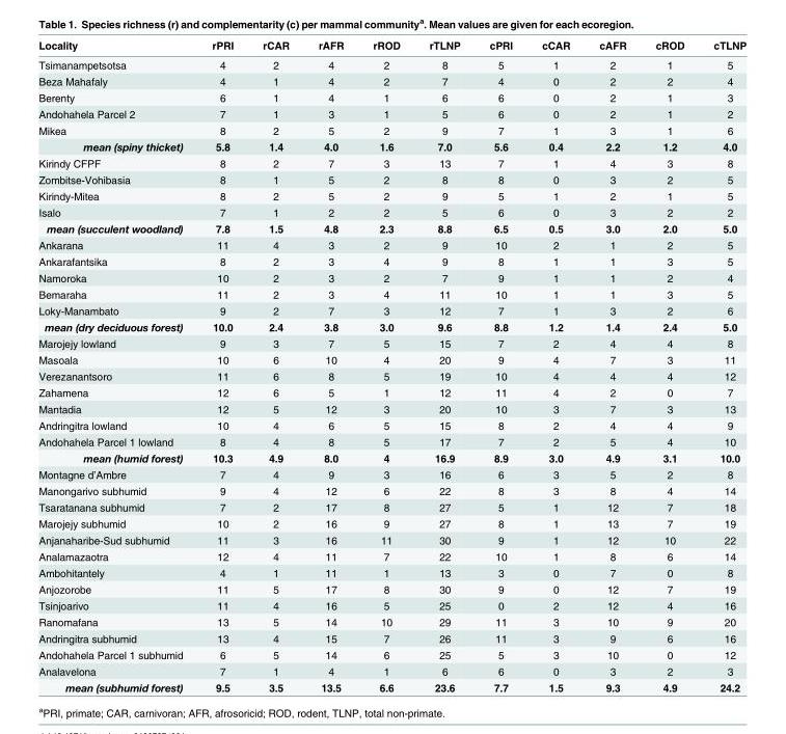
<table><thead><tr><td>Locality</td><td>rPRI</td><td>rCAR</td><td>rAFR</td><td>rROD</td><td>rTLNP</td><td>cPRI</td><td>cCAR</td><td>cAFR</td><td>cROD</td><td>cTLNP</td></tr></thead><tbody><tr><td>Tsimanampetsotsa</td><td>4</td><td>2</td><td>4</td><td>2</td><td>8</td><td>5</td><td>1</td><td>2</td><td>1</td><td>5</td></tr><tr><td>Beza Mahafaly</td><td>4</td><td>1</td><td>4</td><td>2</td><td>7</td><td>4</td><td>0</td><td>2</td><td>2</td><td>4</td></tr><tr><td>Berenty</td><td>6</td><td>1</td><td>4</td><td>1</td><td>6</td><td>6</td><td>0</td><td>2</td><td>1</td><td>3</td></tr><tr><td>Andohahela Parcel 2</td><td>7</td><td>1</td><td>3</td><td>1</td><td>5</td><td>6</td><td>0</td><td>2</td><td>1</td><td>2</td></tr><tr><td>Mikea</td><td>8</td><td>2</td><td>5</td><td>2</td><td>9</td><td>7</td><td>1</td><td>3</td><td>1</td><td>6</td></tr><tr><td>mean (spiny thicket)</td><td>5.8</td><td>1.4</td><td>4.0</td><td>1.6</td><td>7.0</td><td>5.6</td><td>0.4</td><td>2.2</td><td>1.2</td><td>4.0</td></tr><tr><td>Kirindy CFPF</td><td>8</td><td>2</td><td>7</td><td>3</td><td>13</td><td>7</td><td>1</td><td>4</td><td>3</td><td>8</td></tr><tr><td>Zombitse-Vohibasia</td><td>8</td><td>1</td><td>5</td><td>2</td><td>8</td><td>8</td><td>0</td><td>3</td><td>2</td><td>5</td></tr><tr><td>Kirindy-Mitea</td><td>8</td><td>2</td><td>5</td><td>2</td><td>9</td><td>5</td><td>1</td><td>2</td><td>1</td><td>5</td></tr><tr><td>Isalo</td><td>7</td><td>1</td><td>2</td><td>2</td><td>5</td><td>6</td><td>0</td><td>3</td><td>2</td><td>2</td></tr><tr><td>mean (succulent woodland)</td><td>7.8</td><td>1.5</td><td>4.8</td><td>2.3</td><td>8.8</td><td>6.5</td><td>0.5</td><td>3.0</td><td>2.0</td><td>5.0</td></tr><tr><td>Ankarana</td><td>11</td><td>4</td><td>3</td><td>2</td><td>9</td><td>10</td><td>2</td><td>1</td><td>2</td><td>5</td></tr><tr><td>Ankarafantsika</td><td>8</td><td>2</td><td>3</td><td>4</td><td>9</td><td>8</td><td>1</td><td>1</td><td>3</td><td>5</td></tr><tr><td>Namoroka</td><td>10</td><td>2</td><td>3</td><td>2</td><td>7</td><td>9</td><td>1</td><td>1</td><td>2</td><td>4</td></tr><tr><td>Bemaraha</td><td>11</td><td>2</td><td>3</td><td>4</td><td>11</td><td>10</td><td>1</td><td>1</td><td>3</td><td>5</td></tr><tr><td>Loky-Manambato</td><td>9</td><td>2</td><td>7</td><td>3</td><td>12</td><td>7</td><td>1</td><td>3</td><td>2</td><td>6</td></tr><tr><td>mean (dry deciduous forest)</td><td>10.0</td><td>2.4</td><td>3.8</td><td>3.0</td><td>9.6</td><td>8.8</td><td>1.2</td><td>1.4</td><td>2.4</td><td>5.0</td></tr><tr><td>Marojejy lowland</td><td>9</td><td>3</td><td>7</td><td>5</td><td>15</td><td>7</td><td>2</td><td>4</td><td>4</td><td>8</td></tr><tr><td>Masoala</td><td>10</td><td>6</td><td>10</td><td>4</td><td>20</td><td>9</td><td>4</td><td>7</td><td>3</td><td>11</td></tr><tr><td>Verezanantsoro</td><td>11</td><td>6</td><td>8</td><td>5</td><td>19</td><td>10</td><td>4</td><td>4</td><td>4</td><td>12</td></tr><tr><td>Zahamena</td><td>12</td><td>6</td><td>5</td><td>1</td><td>12</td><td>11</td><td>4</td><td>2</td><td>0</td><td>7</td></tr><tr><td>Mantadia</td><td>12</td><td>5</td><td>12</td><td>3</td><td>20</td><td>10</td><td>3</td><td>7</td><td>3</td><td>13</td></tr><tr><td>Andringitra lowland</td><td>10</td><td>4</td><td>6</td><td>5</td><td>15</td><td>8</td><td>2</td><td>4</td><td>4</td><td>9</td></tr><tr><td>Andohahela Parcel 1 lowland</td><td>8</td><td>4</td><td>8</td><td>5</td><td>17</td><td>7</td><td>2</td><td>5</td><td>4</td><td>10</td></tr><tr><td>mean (humid forest)</td><td>10.3</td><td>4.9</td><td>8.0</td><td>4</td><td>16.9</td><td>8.9</td><td>3.0</td><td>4.9</td><td>3.1</td><td>10.0</td></tr><tr><td>Montagne d’Ambre</td><td>7</td><td>4</td><td>9</td><td>3</td><td>16</td><td>6</td><td>3</td><td>5</td><td>2</td><td>8</td></tr><tr><td>Manongarivo subhumid</td><td>9</td><td>4</td><td>12</td><td>6</td><td>22</td><td>8</td><td>3</td><td>8</td><td>4</td><td>14</td></tr><tr><td>Tsaratanana subhumid</td><td>7</td><td>2</td><td>17</td><td>8</td><td>27</td><td>5</td><td>1</td><td>12</td><td>7</td><td>18</td></tr><tr><td>Marojejy subhumid</td><td>10</td><td>2</td><td>16</td><td>9</td><td>27</td><td>8</td><td>1</td><td>13</td><td>7</td><td>19</td></tr><tr><td>Anjanaharibe-Sud subhumid</td><td>11</td><td>3</td><td>16</td><td>11</td><td>30</td><td>9</td><td>1</td><td>12</td><td>10</td><td>22</td></tr><tr><td>Analamazaotra</td><td>12</td><td>4</td><td>11</td><td>7</td><td>22</td><td>10</td><td>1</td><td>8</td><td>6</td><td>14</td></tr><tr><td>Ambohitantely</td><td>4</td><td>1</td><td>11</td><td>1</td><td>13</td><td>3</td><td>0</td><td>7</td><td>0</td><td>8</td></tr><tr><td>Anjozorobe</td><td>11</td><td>5</td><td>17</td><td>8</td><td>30</td><td>9</td><td>0</td><td>12</td><td>7</td><td>19</td></tr><tr><td>Tsinjoarivo</td><td>11</td><td>4</td><td>16</td><td>5</td><td>25</td><td>0</td><td>2</td><td>12</td><td>4</td><td>16</td></tr><tr><td>Ranomafana</td><td>13</td><td>5</td><td>14</td><td>10</td><td>29</td><td>11</td><td>3</td><td>10</td><td>9</td><td>20</td></tr><tr><td>Andringitra subhumid</td><td>13</td><td>4</td><td>15</td><td>7</td><td>26</td><td>11</td><td>3</td><td>9</td><td>6</td><td>16</td></tr><tr><td>Andohahela Parcel 1 subhumid</td><td>6</td><td>5</td><td>14</td><td>6</td><td>25</td><td>5</td><td>3</td><td>10</td><td>0</td><td>12</td></tr><tr><td>Analavelona</td><td>7</td><td>1</td><td>4</td><td>1</td><td>6</td><td>6</td><td>0</td><td>3</td><td>2</td><td>3</td></tr><tr><td>mean (subhumid forest)</td><td>9.5</td><td>3.5</td><td>13.5</td><td>6.6</td><td>23.6</td><td>7.7</td><td>1.5</td><td>9.3</td><td>4.9</td><td>24.2</td></tr></tbody></table>